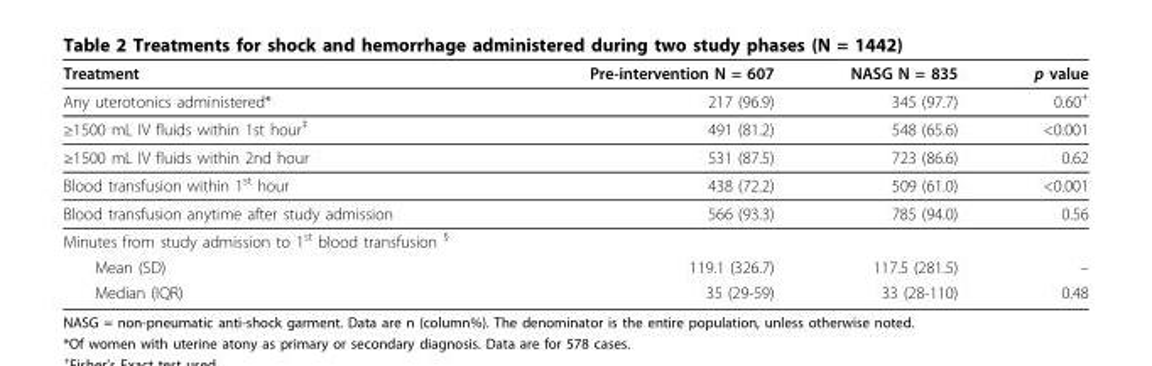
<table><thead><tr><td>Treatment</td><td>Pre-intervention N = 607</td><td>NASG N = 835</td><td>p value</td></tr></thead><tbody><tr><td>Any uterotonics administered*</td><td>217 (96.9)</td><td>345 (97.7)</td><td>0.60<sup>+</sup></td></tr><tr><td>≥1500 mL IV fluids within 1st hour<sup>‡</sup></td><td>491 (81.2)</td><td>548 (65.6)</td><td>&lt;0.001</td></tr><tr><td>≥1500 mL IV fluids within 2nd hour</td><td>531 (87.5)</td><td>723 (86.6)</td><td>0.62</td></tr><tr><td>Blood transfusion within 1<sup>st</sup> hour</td><td>438 (72.2)</td><td>509 (61.0)</td><td>&lt;0.001</td></tr><tr><td>Blood transfusion anytime after study admission</td><td>566 (93.3)</td><td>785 (94.0)</td><td>0.56</td></tr><tr><td colspan="4">Minutes from study admission to 1<sup>st</sup> blood transfusion <sup>§</sup></td></tr><tr><td>Mean (SD)</td><td>119.1 (326.7)</td><td>117.5 (281.5)</td><td>–</td></tr><tr><td>Median (IQR)</td><td>35 (29-59)</td><td>33 (28-110)</td><td>0.48</td></tr></tbody></table>